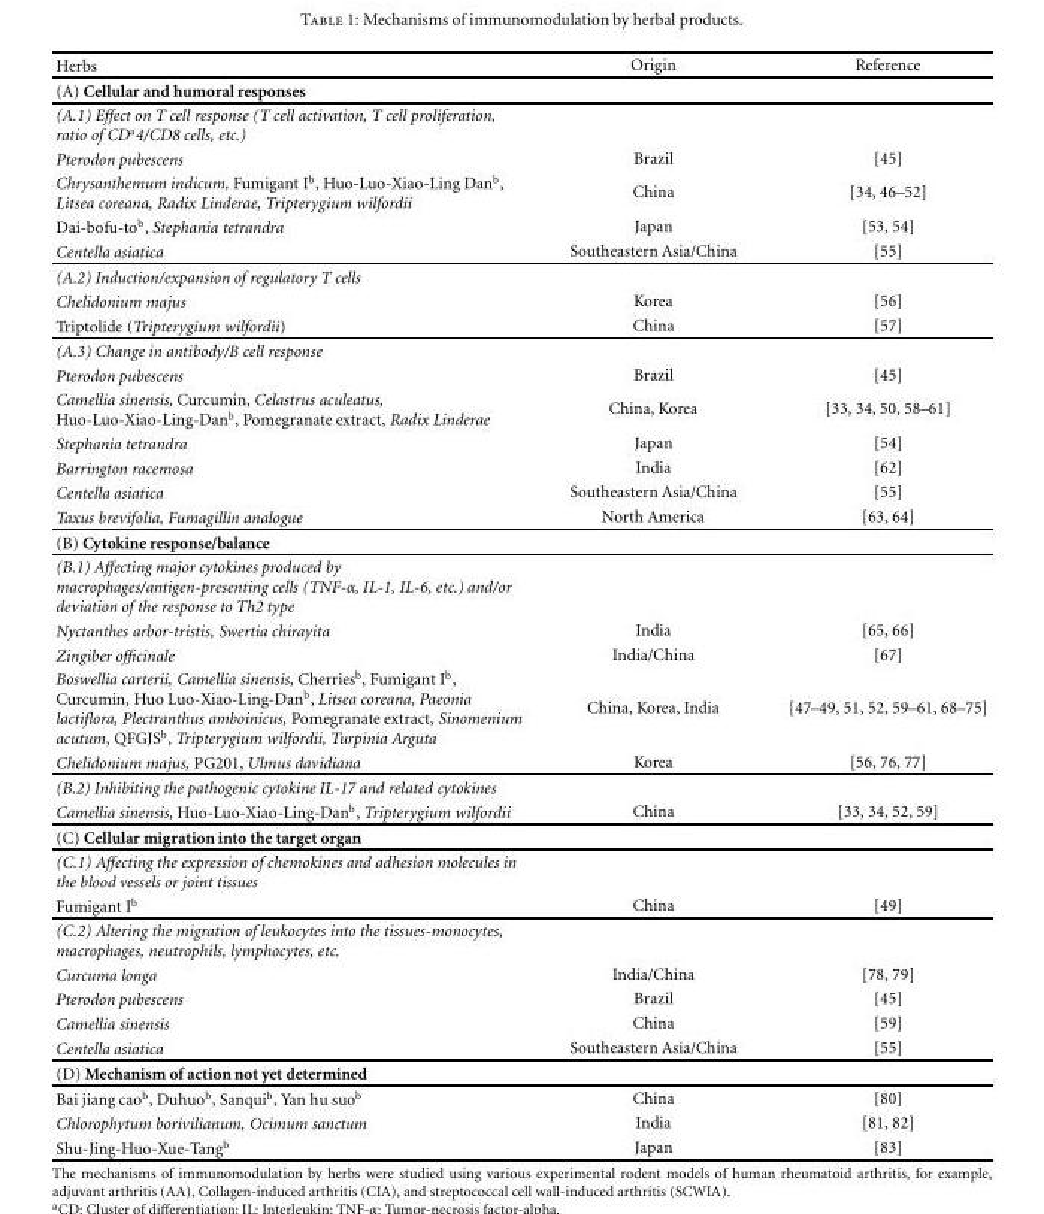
<table><thead><tr><td>Herbs</td><td>Origin</td><td>Reference</td></tr></thead><tbody><tr><td colspan="3">(A) Cellular and humoral responses</td></tr><tr><td colspan="3">(A.1) Effect on T cell response (T cell activation, T cell proliferation, ratio of CD<sup>a</sup>4/CD8 cells, etc.)</td></tr><tr><td>Pterodon pubescens</td><td>Brazil</td><td>[45]</td></tr><tr><td>Chrysanthemum indicum, Fumigant I<sup>b</sup>, Huo-Luo-Xiao-Ling Dan<sup>b</sup>, Litsea coreana, Radix Linderae, Tripterygium wilfordii</td><td>China</td><td>[34, 46–52]</td></tr><tr><td>Dai-bofu-to<sup>b</sup>, Stephania tetrandra</td><td>Japan</td><td>[53, 54]</td></tr><tr><td>Centella asiatica</td><td>Southeastern Asia/China</td><td>[55]</td></tr><tr><td colspan="3">(A.2) Induction/expansion of regulatory T cells</td></tr><tr><td>Chelidonium majus</td><td>Korea</td><td>[56]</td></tr><tr><td>Triptolide (Tripterygium wilfordii)</td><td>China</td><td>[57]</td></tr><tr><td colspan="3">(A.3) Change in antibody/B cell response</td></tr><tr><td>Pterodon pubescens</td><td>Brazil</td><td>[45]</td></tr><tr><td>Camellia sinensis, Curcumin, Celastrus aculeatus, Huo-Luo-Xiao-Ling-Dan<sup>b</sup>, Pomegranate extract, Radix Linderae</td><td>China, Korea</td><td>[33, 34, 50, 58–61]</td></tr><tr><td>Stephania tetrandra</td><td>Japan</td><td>[54]</td></tr><tr><td>Barrington racemosa</td><td>India</td><td>[62]</td></tr><tr><td>Centella asiatica</td><td>Southeastern Asia/China</td><td>[55]</td></tr><tr><td>Taxus brevifolia, Fumagillin analogue</td><td>North America</td><td>[63, 64]</td></tr><tr><td colspan="3">(B) Cytokine response/balance</td></tr><tr><td colspan="3">(B.1) Affecting major cytokines produced by macrophages/antigen-presenting cells (TNF-α, IL-1, IL-6, etc.) and/or deviation of the response to Th2 type</td></tr><tr><td>Nyctanthes arbor-tristis, Swertia chirayita</td><td>India</td><td>[65, 66]</td></tr><tr><td>Zingiber officinale</td><td>India/China</td><td>[67]</td></tr><tr><td>Boswellia carterii, Camellia sinensis, Cherries<sup>b</sup>, Fumigant I<sup>b</sup>, Curcumin, Huo Luo-Xiao-Ling-Dan<sup>b</sup>, Litsea coreana, Paeonia lactiflora, Plectranthus amboinicus, Pomegranate extract, Sinomenium acutum, QFGJS<sup>b</sup>, Tripterygium wilfordii, Turpinia Arguta</td><td>China, Korea, India</td><td>[47–49, 51, 52, 59–61, 68–75]</td></tr><tr><td>Chelidonium majus, PG201, Ulmus davidiana</td><td>Korea</td><td>[56, 76, 77]</td></tr><tr><td colspan="3">(B.2) Inhibiting the pathogenic cytokine IL-17 and related cytokines</td></tr><tr><td>Camellia sinensis, Huo-Luo-Xiao-Ling-Dan<sup>b</sup>, Tripterygium wilfordii</td><td>China</td><td>[33, 34, 52, 59]</td></tr><tr><td colspan="3">(C) Cellular migration into the target organ</td></tr><tr><td colspan="3">(C.1) Affecting the expression of chemokines and adhesion molecules in the blood vessels or joint tissues</td></tr><tr><td>Fumigant I<sup>b</sup></td><td>China</td><td>[49]</td></tr><tr><td colspan="3">(C.2) Altering the migration of leukocytes into the tissues-monocytes, macrophages, neutrophils, lymphocytes, etc.</td></tr><tr><td>Curcuma longa</td><td>India/China</td><td>[78, 79]</td></tr><tr><td>Pterodon pubescens</td><td>Brazil</td><td>[45]</td></tr><tr><td>Camellia sinensis</td><td>China</td><td>[59]</td></tr><tr><td>Centella asiatica</td><td>Southeastern Asia/China</td><td>[55]</td></tr><tr><td colspan="3">(D) Mechanism of action not yet determined</td></tr><tr><td>Bai jiang cao<sup>b</sup>, Duhuo<sup>b</sup>, Sanqui<sup>b</sup>, Yan hu suo<sup>b</sup></td><td>China</td><td>[80]</td></tr><tr><td>Chlorophytum borivilianum, Ocimum sanctum</td><td>India</td><td>[81, 82]</td></tr><tr><td>Shu-Jing-Huo-Xue-Tang<sup>b</sup></td><td>Japan</td><td>[83]</td></tr></tbody></table>